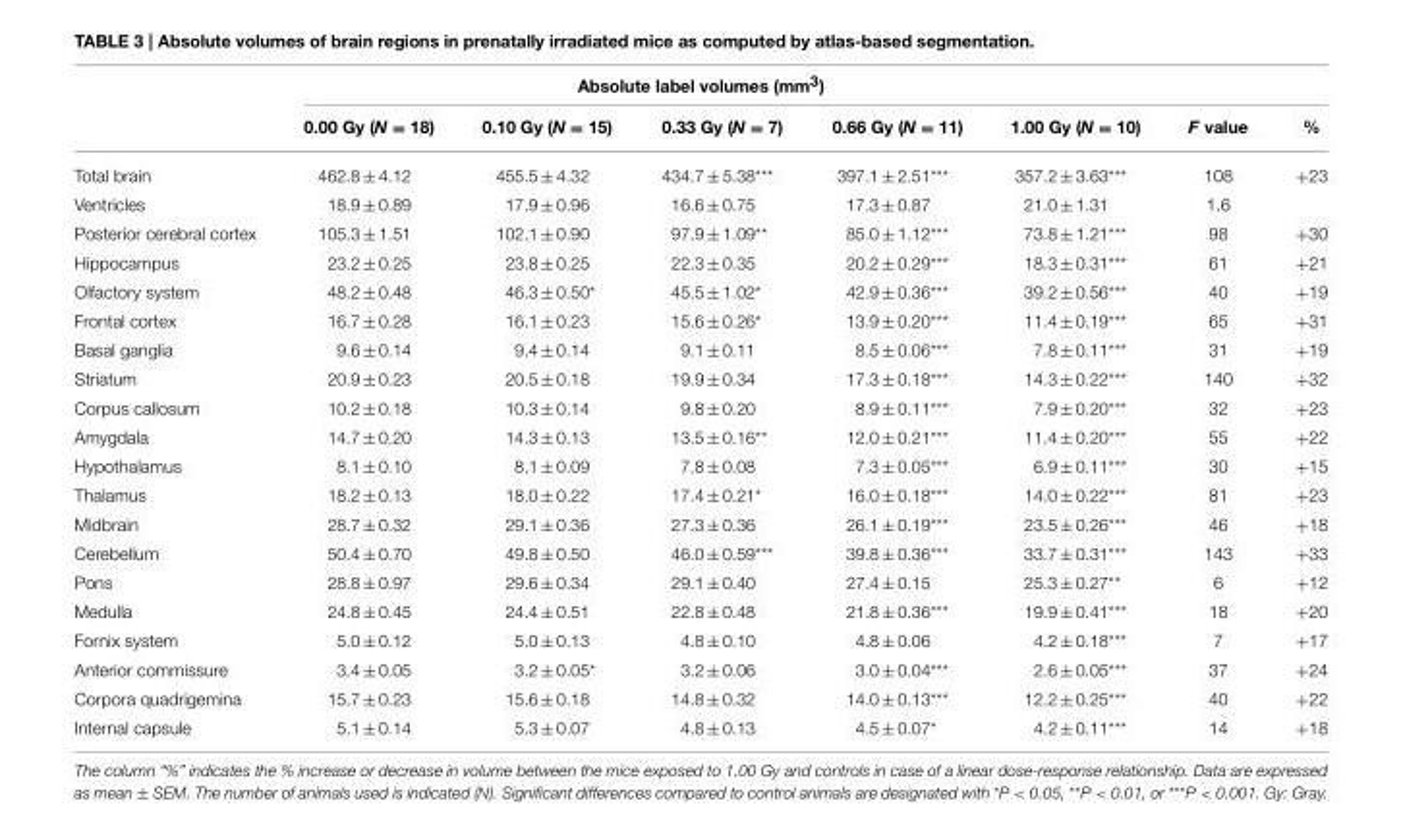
<table><thead><tr><td rowspan="2"></td><td colspan="7">Absolute label volumes (mm<sup>3</sup>)</td></tr><tr><td>0.00 Gy (N = 18)</td><td>0.10 Gy (N = 15)</td><td>0.33 Gy (N = 7)</td><td>0.66 Gy (N = 11)</td><td>1.00 Gy (N = 10)</td><td>F value</td><td>%</td></tr></thead><tbody><tr><td>Total brain</td><td>462.8 ± 4.12</td><td>455.5 ± 4.32</td><td>434.7 ± 5.38***</td><td>397.1 ± 2.51***</td><td>357.2 ± 3.63***</td><td>108</td><td>+23</td></tr><tr><td>Ventricles</td><td>18.9 ± 0.89</td><td>17.9 ± 0.96</td><td>16.6 ± 0.75</td><td>17.3 ± 0.87</td><td>21.0 ± 1.31</td><td>1.6</td><td></td></tr><tr><td>Posterior cerebral cortex</td><td>105.3 ± 1.51</td><td>102.1 ± 0.90</td><td>97.9 ± 1.09**</td><td>85.0 ± 1.12***</td><td>73.8 ± 1.21***</td><td>98</td><td>+30</td></tr><tr><td>Hippocampus</td><td>23.2 ± 0.25</td><td>23.8 ± 0.25</td><td>22.3 ± 0.35</td><td>20.2 ± 0.29***</td><td>18.3 ± 0.31***</td><td>61</td><td>+21</td></tr><tr><td>Olfactory system</td><td>48.2 ± 0.48</td><td>46.3 ± 0.50*</td><td>45.5 ± 1.02*</td><td>42.9 ± 0.36***</td><td>39.2 ± 0.56***</td><td>40</td><td>+19</td></tr><tr><td>Frontal cortex</td><td>16.7 ± 0.28</td><td>16.1 ± 0.23</td><td>15.6 ± 0.26*</td><td>13.9 ± 0.20***</td><td>11.4 ± 0.19***</td><td>65</td><td>+31</td></tr><tr><td>Basal ganglia</td><td>9.6 ± 0.14</td><td>9.4 ± 0.14</td><td>9.1 ± 0.11</td><td>8.5 ± 0.06***</td><td>7.8 ± 0.11***</td><td>31</td><td>+19</td></tr><tr><td>Striatum</td><td>20.9 ± 0.23</td><td>20.5 ± 0.18</td><td>19.9 ± 0.34</td><td>17.3 ± 0.18***</td><td>14.3 ± 0.22***</td><td>140</td><td>+32</td></tr><tr><td>Corpus callosum</td><td>10.2 ± 0.18</td><td>10.3 ± 0.14</td><td>9.8 ± 0.20</td><td>8.9 ± 0.11***</td><td>7.9 ± 0.20***</td><td>32</td><td>+23</td></tr><tr><td>Amygdala</td><td>14.7 ± 0.20</td><td>14.3 ± 0.13</td><td>13.5 ± 0.16**</td><td>12.0 ± 0.21***</td><td>11.4 ± 0.20***</td><td>55</td><td>+22</td></tr><tr><td>Hypothalamus</td><td>8.1 ± 0.10</td><td>8.1 ± 0.09</td><td>7.8 ± 0.08</td><td>7.3 ± 0.05***</td><td>6.9 ± 0.11***</td><td>30</td><td>+15</td></tr><tr><td>Thalamus</td><td>18.2 ± 0.13</td><td>18.0 ± 0.22</td><td>17.4 ± 0.21*</td><td>16.0 ± 0.18***</td><td>14.0 ± 0.22***</td><td>81</td><td>+23</td></tr><tr><td>Midbrain</td><td>28.7 ± 0.32</td><td>29.1 ± 0.36</td><td>27.3 ± 0.36</td><td>26.1 ± 0.19***</td><td>23.5 ± 0.26***</td><td>46</td><td>+18</td></tr><tr><td>Cerebellum</td><td>50.4 ± 0.70</td><td>49.8 ± 0.50</td><td>46.0 ± 0.59***</td><td>39.8 ± 0.36***</td><td>33.7 ± 0.31***</td><td>143</td><td>+33</td></tr><tr><td>Pons</td><td>28.8 ± 0.97</td><td>29.6 ± 0.34</td><td>29.1 ± 0.40</td><td>27.4 ± 0.15</td><td>25.3 ± 0.27**</td><td>6</td><td>+12</td></tr><tr><td>Medulla</td><td>24.8 ± 0.45</td><td>24.4 ± 0.51</td><td>22.8 ± 0.48</td><td>21.8 ± 0.36***</td><td>19.9 ± 0.41***</td><td>18</td><td>+20</td></tr><tr><td>Fornix system</td><td>5.0 ± 0.12</td><td>5.0 ± 0.13</td><td>4.8 ± 0.10</td><td>4.8 ± 0.06</td><td>4.2 ± 0.18***</td><td>7</td><td>+17</td></tr><tr><td>Anterior commissure</td><td>3.4 ± 0.05</td><td>3.2 ± 0.05*</td><td>3.2 ± 0.06</td><td>3.0 ± 0.04***</td><td>2.6 ± 0.05***</td><td>37</td><td>+24</td></tr><tr><td>Corpora quadrigemina</td><td>15.7 ± 0.23</td><td>15.6 ± 0.18</td><td>14.8 ± 0.32</td><td>14.0 ± 0.13***</td><td>12.2 ± 0.25***</td><td>40</td><td>+22</td></tr><tr><td>Internal capsule</td><td>5.1 ± 0.14</td><td>5.3 ± 0.07</td><td>4.8 ± 0.13</td><td>4.5 ± 0.07*</td><td>4.2 ± 0.11***</td><td>14</td><td>+18</td></tr></tbody></table>